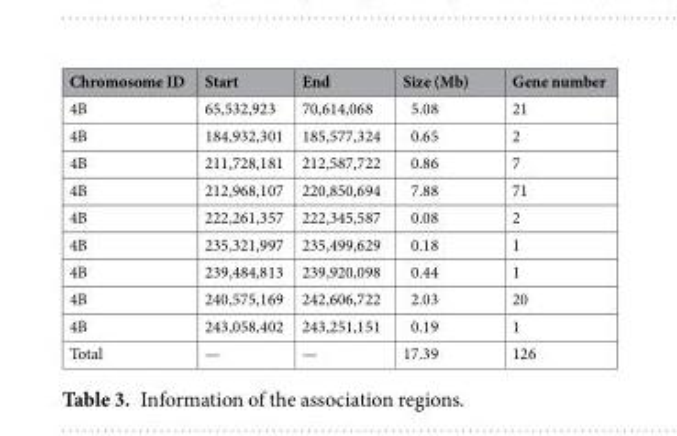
<table><thead><tr><td>Chromosome ID</td><td>Start</td><td>End</td><td>Size (Mb)</td><td>Gene number</td></tr></thead><tbody><tr><td>4B</td><td>65,532,923</td><td>70,614,068</td><td>5.08</td><td>21</td></tr><tr><td>4B</td><td>184,932,301</td><td>185,577,324</td><td>0.65</td><td>2</td></tr><tr><td>4B</td><td>211,728,181</td><td>212,587,722</td><td>0.86</td><td>7</td></tr><tr><td>4B</td><td>212,968,107</td><td>220,850,694</td><td>7.88</td><td>71</td></tr><tr><td>4B</td><td>222,261,357</td><td>222,345,587</td><td>0.08</td><td>2</td></tr><tr><td>4B</td><td>235,321,997</td><td>235,499,629</td><td>0.18</td><td>1</td></tr><tr><td>4B</td><td>239,484,813</td><td>239,920,098</td><td>0.44</td><td>1</td></tr><tr><td>4B</td><td>240,575,169</td><td>242,606,722</td><td>2.03</td><td>20</td></tr><tr><td>4B</td><td>243,058,402</td><td>243,251,151</td><td>0.19</td><td>1</td></tr><tr><td>Total</td><td>—</td><td>—</td><td>17.39</td><td>126</td></tr></tbody></table>